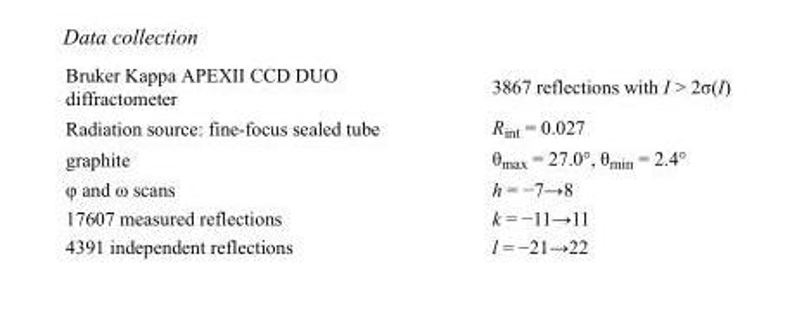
<table><tbody><tr><td>Bruker Kappa APEXII CCD DUO diffractometer</td><td>3867 reflections with I &gt; 2σ(I)</td></tr><tr><td>Radiation source: fine-focus sealed tube</td><td>R<sub>int</sub> = 0.027</td></tr><tr><td>graphite</td><td>θ<sub>max</sub> = 27.0°, θ<sub>min</sub> = 2.4°</td></tr><tr><td>φ and ω scans</td><td>h = −7→8</td></tr><tr><td>17607 measured reflections</td><td>k = −11→11</td></tr><tr><td>4391 independent reflections</td><td>l = −21→22</td></tr></tbody></table>